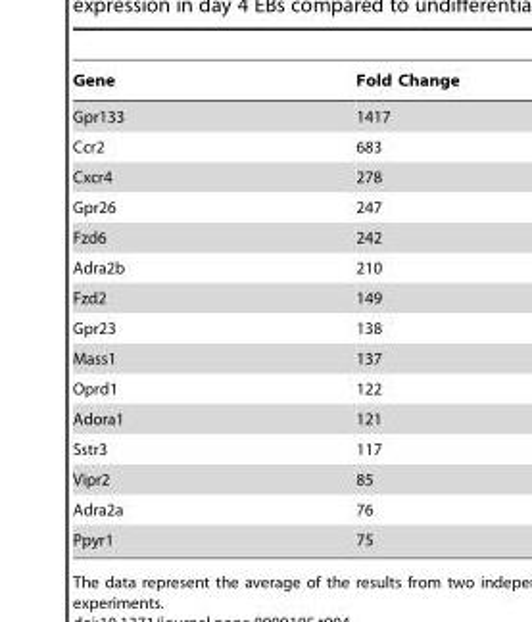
<table><thead><tr><td>Gene</td><td>Fold Change</td></tr></thead><tbody><tr><td>Gpr133</td><td>1417</td></tr><tr><td>Ccr2</td><td>683</td></tr><tr><td>Cxcr4</td><td>278</td></tr><tr><td>Gpr26</td><td>247</td></tr><tr><td>Fzd6</td><td>242</td></tr><tr><td>Adra2b</td><td>210</td></tr><tr><td>Fzd2</td><td>149</td></tr><tr><td>Gpr23</td><td>138</td></tr><tr><td>Mass1</td><td>137</td></tr><tr><td>Oprd1</td><td>122</td></tr><tr><td>Adora1</td><td>121</td></tr><tr><td>Sstr3</td><td>117</td></tr><tr><td>Vipr2</td><td>85</td></tr><tr><td>Adra2a</td><td>76</td></tr><tr><td>Ppyr1</td><td>75</td></tr></tbody></table>